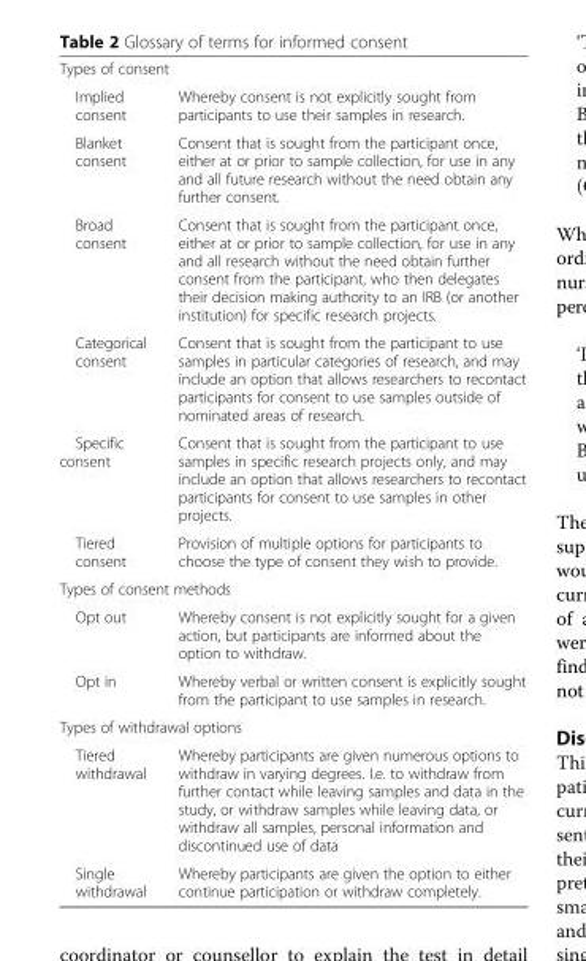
<table><tbody><tr><td colspan="2">Types of consent</td></tr><tr><td>Implied consent</td><td>Whereby consent is not explicitly sought from participants to use their samples in research.</td></tr><tr><td>Blanket consent</td><td>Consent that is sought from the participant once, either at or prior to sample collection, for use in any and all future research without the need obtain any further consent.</td></tr><tr><td>Broad consent</td><td>Consent that is sought from the participant once, either at or prior to sample collection, for use in any and all research without the need obtain further consent from the participant, who then delegates their decision making authority to an IRB (or another institution) for specific research projects.</td></tr><tr><td>Categorical consent</td><td>Consent that is sought from the participant to use samples in particular categories of research, and may include an option that allows researchers to recontact participants for consent to use samples outside of nominated areas of research.</td></tr><tr><td>Specific consent</td><td>Consent that is sought from the participant to use samples in specific research projects only, and may include an option that allows researchers to recontact participants for consent to use samples in other projects.</td></tr><tr><td>Tiered consent</td><td>Provision of multiple options for participants to choose the type of consent they wish to provide.</td></tr><tr><td colspan="2">Types of consent methods</td></tr><tr><td>Opt out</td><td>Whereby consent is not explicitly sought for a given action, but participants are informed about the option to withdraw.</td></tr><tr><td>Opt in</td><td>Whereby verbal or written consent is explicitly sought from the participant to use samples in research.</td></tr><tr><td colspan="2">Types of withdrawal options</td></tr><tr><td>Tiered withdrawal</td><td>Whereby participants are given numerous options to withdraw in varying degrees. I.e. to withdraw from further contact while leaving samples and data in the study, or withdraw samples while leaving data, or withdraw all samples, personal information and discontinued use of data</td></tr><tr><td>Single withdrawal</td><td>Whereby participants are given the option to either continue participation or withdraw completely.</td></tr></tbody></table>